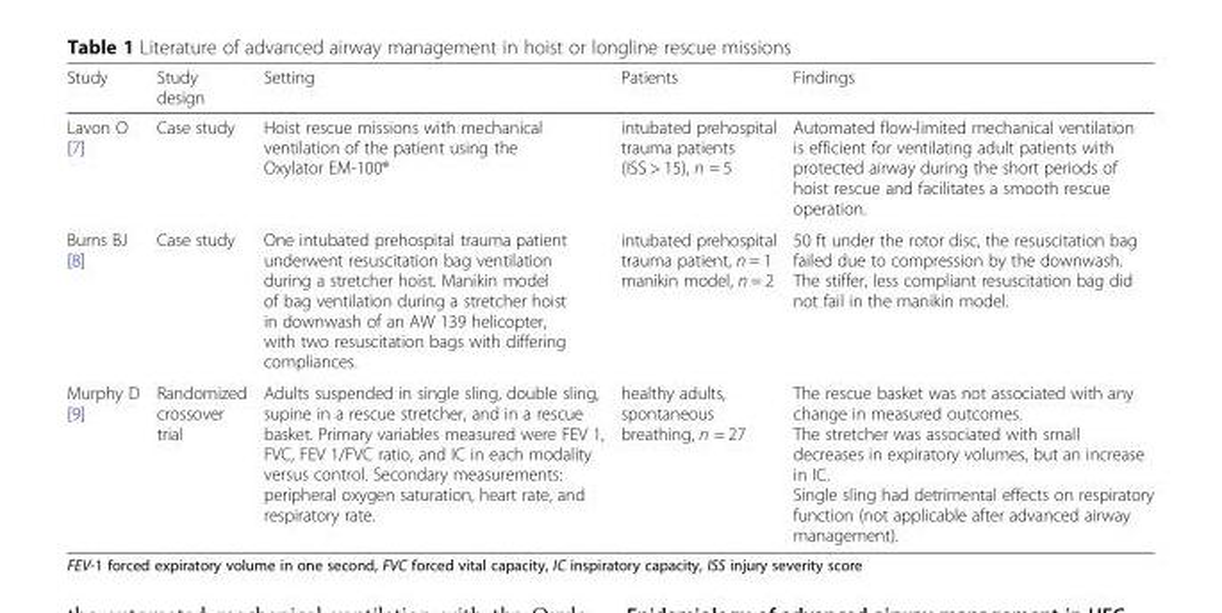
<table><thead><tr><td>Study</td><td>Study design</td><td>Setting</td><td>Patients</td><td>Findings</td></tr></thead><tbody><tr><td>Lavon O [7]</td><td>Case study</td><td>Hoist rescue missions with mechanical ventilation of the patient using the Oxylator EM-100®</td><td>intubated prehospital trauma patients (ISS &gt; 15), n = 5</td><td>Automated flow-limited mechanical ventilation is efficient for ventilating adult patients with protected airway during the short periods of hoist rescue and facilitates a smooth rescue operation.</td></tr><tr><td>Burns BJ [8]</td><td>Case study</td><td>One intubated prehospital trauma patient underwent resuscitation bag ventilation during a stretcher hoist. Manikin model of bag ventilation during a stretcher hoist in downwash of an AW 139 helicopter, with two resuscitation bags with differing compliances.</td><td>intubated prehospital trauma patient, n = 1 manikin model, n = 2</td><td>50 ft under the rotor disc, the resuscitation bag failed due to compression by the downwash. The stiffer, less compliant resuscitation bag did not fail in the manikin model.</td></tr><tr><td>Murphy D [9]</td><td>Randomized crossover trial</td><td>Adults suspended in single sling, double sling, supine in a rescue stretcher, and in a rescue basket. Primary variables measured were FEV 1, FVC, FEV 1/FVC ratio, and IC in each modality versus control. Secondary measurements: peripheral oxygen saturation, heart rate, and respiratory rate.</td><td>healthy adults, spontaneous breathing, n = 27</td><td>The rescue basket was not associated with any change in measured outcomes. The stretcher was associated with small decreases in expiratory volumes, but an increase in IC. Single sling had detrimental effects on respiratory function (not applicable after advanced airway management).</td></tr></tbody></table>